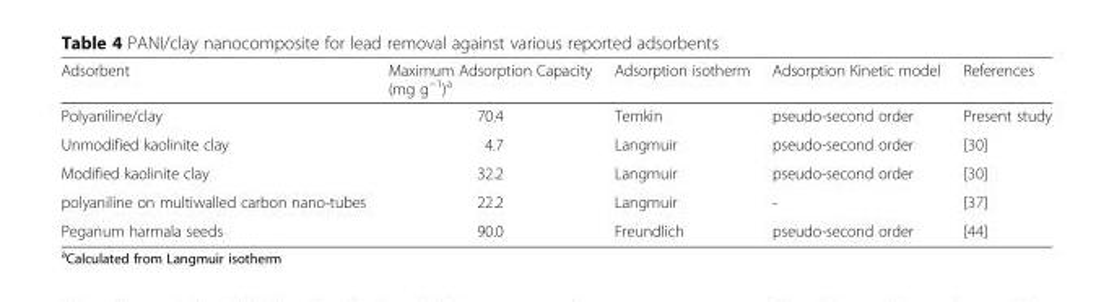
<table><thead><tr><td>Adsorbent</td><td>Maximum Adsorption Capacity (mg g<sup>−1</sup>)<sup>a</sup></td><td>Adsorption isotherm</td><td>Adsorption Kinetic model</td><td>References</td></tr></thead><tbody><tr><td>Polyaniline/clay</td><td>70.4</td><td>Temkin</td><td>pseudo-second order</td><td>Present study</td></tr><tr><td>Unmodified kaolinite clay</td><td>4.7</td><td>Langmuir</td><td>pseudo-second order</td><td>[30]</td></tr><tr><td>Modified kaolinite clay</td><td>32.2</td><td>Langmuir</td><td>pseudo-second order</td><td>[30]</td></tr><tr><td>polyaniline on multiwalled carbon nano-tubes</td><td>22.2</td><td>Langmuir</td><td>-</td><td>[37]</td></tr><tr><td>Peganum harmala seeds</td><td>90.0</td><td>Freundlich</td><td>pseudo-second order</td><td>[44]</td></tr></tbody></table>